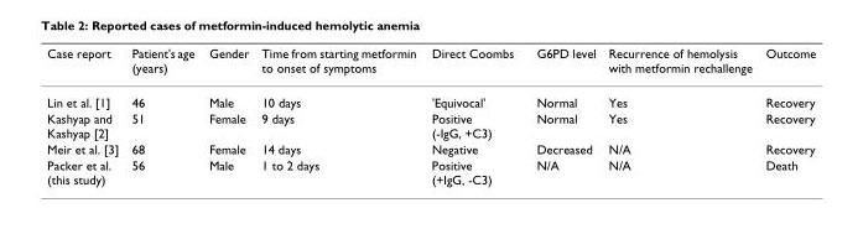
<table><thead><tr><td>Case report</td><td>Patient&#x27;s age (years)</td><td>Gender</td><td>Time from starting metformin to onset of symptoms</td><td>Direct Coombs</td><td>G6PD level</td><td>Recurrence of hemolysis with metformin rechallenge</td><td>Outcome</td></tr></thead><tbody><tr><td>Lin et al. [1]</td><td>46</td><td>Male</td><td>10 days</td><td>&#x27;Equivocal&#x27;</td><td>Normal</td><td>Yes</td><td>Recovery</td></tr><tr><td>Kashyap and Kashyap [2]</td><td>51</td><td>Female</td><td>9 days</td><td>Positive (-IgG, +C3)</td><td>Normal</td><td>Yes</td><td>Recovery</td></tr><tr><td>Meir et al. [3]</td><td>68</td><td>Female</td><td>14 days</td><td>Negative</td><td>Decreased</td><td>N/A</td><td>Recovery</td></tr><tr><td>Packer et al. (this study)</td><td>56</td><td>Male</td><td>1 to 2 days</td><td>Positive (+IgG, -C3)</td><td>N/A</td><td>N/A</td><td>Death</td></tr></tbody></table>